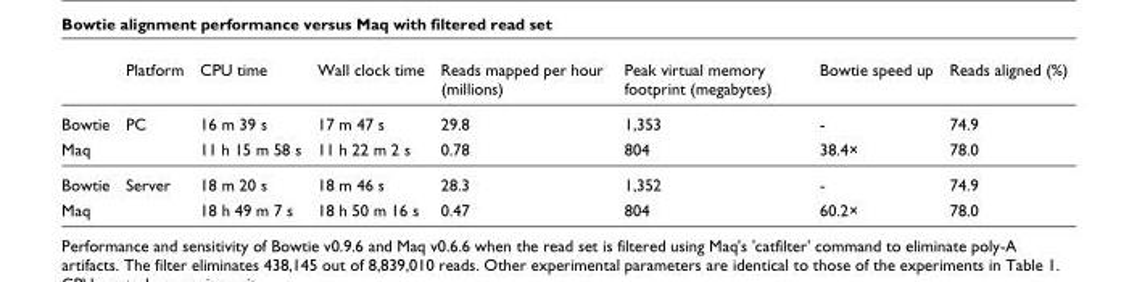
<table><thead><tr><td></td><td>Platform</td><td>CPU time</td><td>Wall clock time</td><td>Reads mapped per hour (millions)</td><td>Peak virtual memory footprint (megabytes)</td><td>Bowtie speed up</td><td>Reads aligned (%)</td></tr></thead><tbody><tr><td>Bowtie</td><td>PC</td><td>16 m 39 s</td><td>17 m 47 s</td><td>29.8</td><td>1,353</td><td>-</td><td>74.9</td></tr><tr><td>Maq</td><td></td><td>11 h 15 m 58 s</td><td>11 h 22 m 2 s</td><td>0.78</td><td>804</td><td>38.4×</td><td>78.0</td></tr><tr><td>Bowtie</td><td>Server</td><td>18 m 20 s</td><td>18 m 46 s</td><td>28.3</td><td>1,352</td><td>-</td><td>74.9</td></tr><tr><td>Maq</td><td></td><td>18 h 49 m 7 s</td><td>18 h 50 m 16 s</td><td>0.47</td><td>804</td><td>60.2×</td><td>78.0</td></tr></tbody></table>